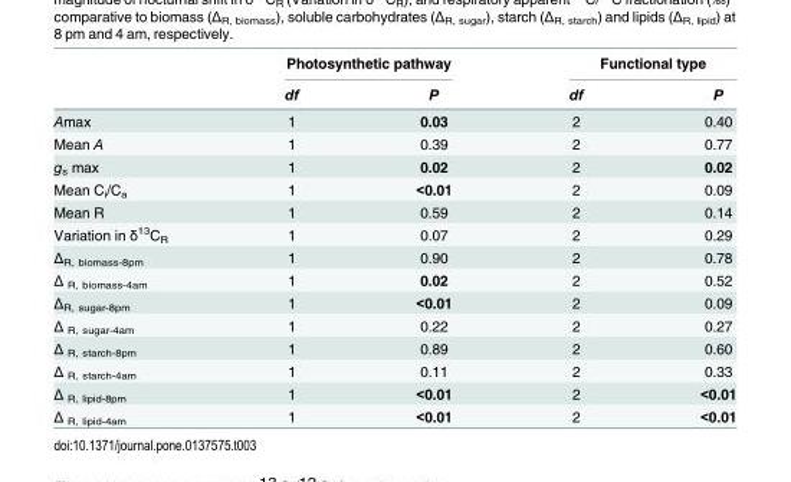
<table><thead><tr><td rowspan="2"></td><td colspan="2">Photosynthetic pathway</td><td colspan="2">Functional type</td></tr><tr><td>df</td><td>P</td><td>df</td><td>P</td></tr></thead><tbody><tr><td>Amax</td><td>1</td><td>0.03</td><td>2</td><td>0.40</td></tr><tr><td>Mean A</td><td>1</td><td>0.39</td><td>2</td><td>0.77</td></tr><tr><td>g<sub>s</sub> max</td><td>1</td><td>0.02</td><td>2</td><td>0.02</td></tr><tr><td>Mean C<sub>i</sub>/C<sub>a</sub></td><td>1</td><td>&lt;0.01</td><td>2</td><td>0.09</td></tr><tr><td>Mean R</td><td>1</td><td>0.59</td><td>2</td><td>0.14</td></tr><tr><td>Variation in δ<sup>13</sup>C<sub>R</sub></td><td>1</td><td>0.07</td><td>2</td><td>0.29</td></tr><tr><td>Δ<sub>R, biomass-8pm</sub></td><td>1</td><td>0.90</td><td>2</td><td>0.78</td></tr><tr><td>Δ <sub>R, biomass-4am</sub></td><td>1</td><td>0.02</td><td>2</td><td>0.52</td></tr><tr><td>Δ<sub>R, sugar-8pm</sub></td><td>1</td><td>&lt;0.01</td><td>2</td><td>0.09</td></tr><tr><td>Δ <sub>R, sugar-4am</sub></td><td>1</td><td>0.22</td><td>2</td><td>0.27</td></tr><tr><td>Δ <sub>R, starch-8pm</sub></td><td>1</td><td>0.89</td><td>2</td><td>0.60</td></tr><tr><td>Δ <sub>R, starch-4am</sub></td><td>1</td><td>0.11</td><td>2</td><td>0.33</td></tr><tr><td>Δ <sub>R, lipid-8pm</sub></td><td>1</td><td>&lt;0.01</td><td>2</td><td>&lt;0.01</td></tr><tr><td>Δ <sub>R, lipid-4am</sub></td><td>1</td><td>&lt;0.01</td><td>2</td><td>&lt;0.01</td></tr></tbody></table>